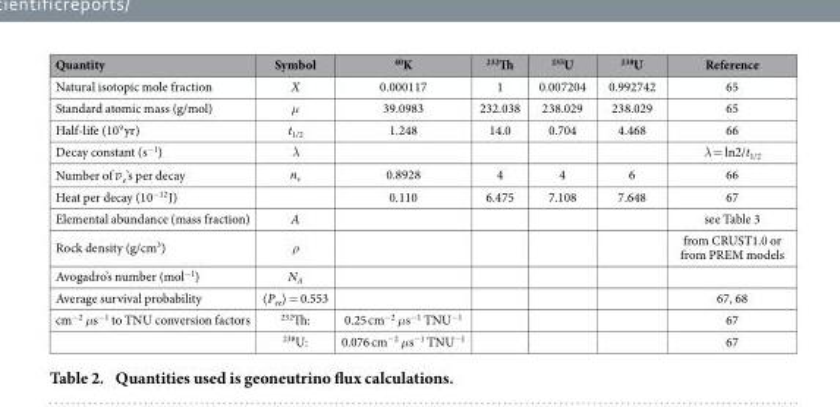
<table><thead><tr><td>Quantity</td><td>Symbol</td><td><sup>40</sup>K</td><td><sup>232</sup>Th</td><td><sup>235</sup>U</td><td><sup>238</sup>U</td><td>Reference</td></tr></thead><tbody><tr><td>Natural isotopic mole fraction</td><td>X</td><td>0.000117</td><td>1</td><td>0.007204</td><td>0.992742</td><td>65</td></tr><tr><td>Standard atomic mass (g/mol)</td><td>μ</td><td>39.0983</td><td>232.038</td><td>238.029</td><td>238.029</td><td>65</td></tr><tr><td>Half-life (10<sup>9</sup> yr)</td><td>t<sub>1/2</sub></td><td>1.248</td><td>14.0</td><td>0.704</td><td>4.468</td><td>66</td></tr><tr><td>Decay constant (s<sup>−1</sup>)</td><td>λ</td><td></td><td></td><td></td><td></td><td>λ = ln2/t<sub>1/2</sub></td></tr><tr><td>Number of νe’s per decay</td><td>n<sub>v</sub></td><td>0.8928</td><td>4</td><td>4</td><td>6</td><td>66</td></tr><tr><td>Heat per decay (10<sup>−12</sup> J)</td><td></td><td>0.110</td><td>6.475</td><td>7.108</td><td>7.648</td><td>67</td></tr><tr><td>Elemental abundance (mass fraction)</td><td>A</td><td></td><td></td><td></td><td></td><td>see Table 3</td></tr><tr><td>Rock density (g/cm<sup>3</sup>)</td><td>ρ</td><td></td><td></td><td></td><td></td><td>from CRUST1.0 or from PREM models</td></tr><tr><td>Avogadro’s number (mol<sup>−1</sup>)</td><td>N<sub>A</sub></td><td></td><td></td><td></td><td></td><td></td></tr><tr><td>Average survival probability</td><td>〈 P<sub>ee</sub>〉 = 0.553</td><td></td><td></td><td></td><td></td><td>67, 68</td></tr><tr><td rowspan="2">cm<sup>−2</sup> μs<sup>−1</sup> to TNU conversion factors</td><td><sup>232</sup>Th:</td><td>0.25 cm<sup>−2</sup> μs<sup>−1</sup> TNU<sup>−1</sup></td><td></td><td></td><td></td><td>67</td></tr><tr><td><sup>238</sup>U:</td><td>0.076 cm<sup>−2</sup> μs<sup>−1</sup> TNU<sup>−1</sup></td><td></td><td></td><td></td><td>67</td></tr></tbody></table>